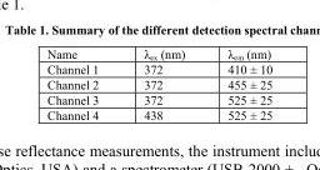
<table><thead><tr><td>Name</td><td>λ<sub>ex</sub> (nm)</td><td>λ<sub>em</sub> (nm)</td></tr></thead><tbody><tr><td>Channel 1</td><td>372</td><td>410 ± 10</td></tr><tr><td>Channel 2</td><td>372</td><td>455 ± 25</td></tr><tr><td>Channel 3</td><td>372</td><td>525 ± 25</td></tr><tr><td>Channel 4</td><td>438</td><td>525 ± 25</td></tr></tbody></table>